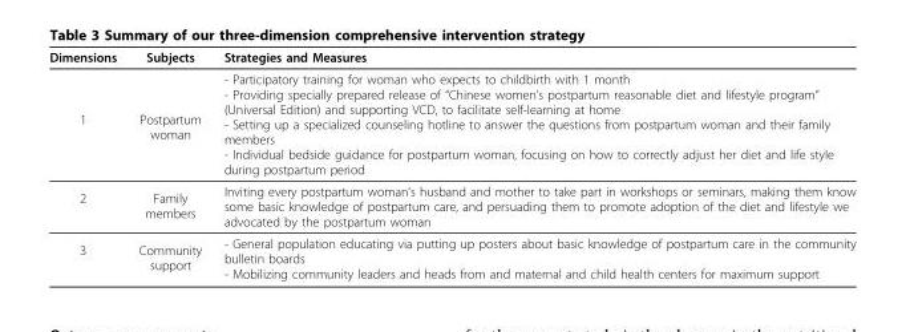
<table><thead><tr><td>Dimensions</td><td>Subjects</td><td>Strategies and Measures</td></tr></thead><tbody><tr><td>1</td><td>Postpartum woman</td><td>- Participatory training for woman who expects to childbirth with 1 month - Providing specially prepared release of “Chinese women’s postpartum reasonable diet and lifestyle program” (Universal Edition) and supporting VCD, to facilitate self-learning at home - Setting up a specialized counseling hotline to answer the questions from postpartum woman and their family members - Individual bedside guidance for postpartum woman, focusing on how to correctly adjust her diet and life style during postpartum period</td></tr><tr><td>2</td><td>Family members</td><td>Inviting every postpartum woman’s husband and mother to take part in workshops or seminars, making them know some basic knowledge of postpartum care, and persuading them to promote adoption of the diet and lifestyle we advocated by the postpartum woman</td></tr><tr><td>3</td><td>Community support</td><td>- General population educating via putting up posters about basic knowledge of postpartum care in the community bulletin boards - Mobilizing community leaders and heads from and maternal and child health centers for maximum support</td></tr></tbody></table>